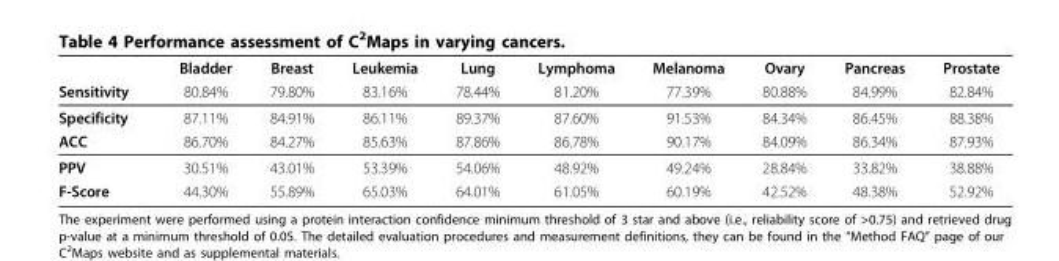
<table><thead><tr><td rowspan="2">Sensitivity</td><td rowspan="2">Bladder 80.84%</td><td rowspan="2">Breast 79.80%</td><td rowspan="2">Leukemia 83.16%</td><td rowspan="2">Lung 78.44%</td><td rowspan="2">Lymphoma 81.20%</td><td rowspan="2">Melanoma 77.39%</td><td rowspan="2">Ovary 80.88%</td><td rowspan="2">Pancreas 84.99%</td><td rowspan="2">Prostate 82.84%</td></tr><tr></tr></thead><tbody><tr><td>Specificity</td><td>87.11%</td><td>84.91%</td><td>86.11%</td><td>89.37%</td><td>87.60%</td><td>91.53%</td><td>84.34%</td><td>86.45%</td><td>88.38%</td></tr><tr><td>ACC</td><td>86.70%</td><td>84.27%</td><td>85.63%</td><td>87.86%</td><td>86.78%</td><td>90.17%</td><td>84.09%</td><td>86.34%</td><td>87.93%</td></tr><tr><td>PPV</td><td>30.51%</td><td>43.01%</td><td>53.39%</td><td>54.06%</td><td>48.92%</td><td>49.24%</td><td>28.84%</td><td>33.82%</td><td>38.88%</td></tr><tr><td>F-Score</td><td>44.30%</td><td>55.89%</td><td>65.03%</td><td>64.01%</td><td>61.05%</td><td>60.19%</td><td>42.52%</td><td>48.38%</td><td>52.92%</td></tr></tbody></table>